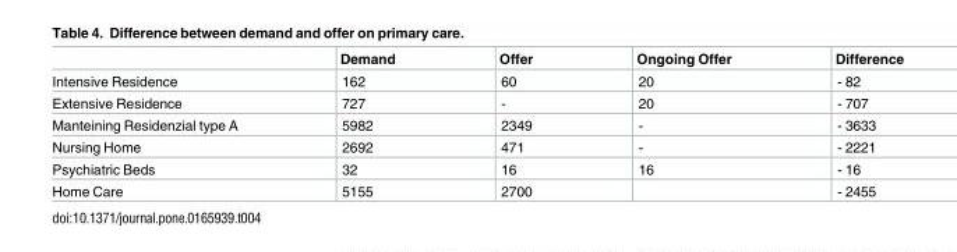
<table><thead><tr><td></td><td>Demand</td><td>Offer</td><td>Ongoing Offer</td><td>Difference</td></tr></thead><tbody><tr><td>Intensive Residence</td><td>162</td><td>60</td><td>20</td><td>- 82</td></tr><tr><td>Extensive Residence</td><td>727</td><td>-</td><td>20</td><td>- 707</td></tr><tr><td>Manteining Residenzial type A</td><td>5982</td><td>2349</td><td>-</td><td>- 3633</td></tr><tr><td>Nursing Home</td><td>2692</td><td>471</td><td>-</td><td>- 2221</td></tr><tr><td>Psychiatric Beds</td><td>32</td><td>16</td><td>16</td><td>- 16</td></tr><tr><td>Home Care</td><td>5155</td><td>2700</td><td></td><td>- 2455</td></tr></tbody></table>